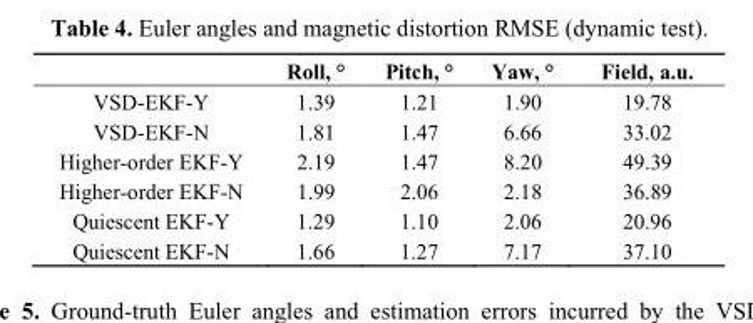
<table><thead><tr><td></td><td>Roll, °</td><td>Pitch, °</td><td>Yaw, °</td><td>Field, a.u.</td></tr></thead><tbody><tr><td>VSD-EKF-Y</td><td>1.39</td><td>1.21</td><td>1.90</td><td>19.78</td></tr><tr><td>VSD-EKF-N</td><td>1.81</td><td>1.47</td><td>6.66</td><td>33.02</td></tr><tr><td>Higher-order EKF-Y</td><td>2.19</td><td>1.47</td><td>8.20</td><td>49.39</td></tr><tr><td>Higher-order EKF-N</td><td>1.99</td><td>2.06</td><td>2.18</td><td>36.89</td></tr><tr><td>Quiescent EKF-Y</td><td>1.29</td><td>1.10</td><td>2.06</td><td>20.96</td></tr><tr><td>Quiescent EKF-N</td><td>1.66</td><td>1.27</td><td>7.17</td><td>37.10</td></tr></tbody></table>